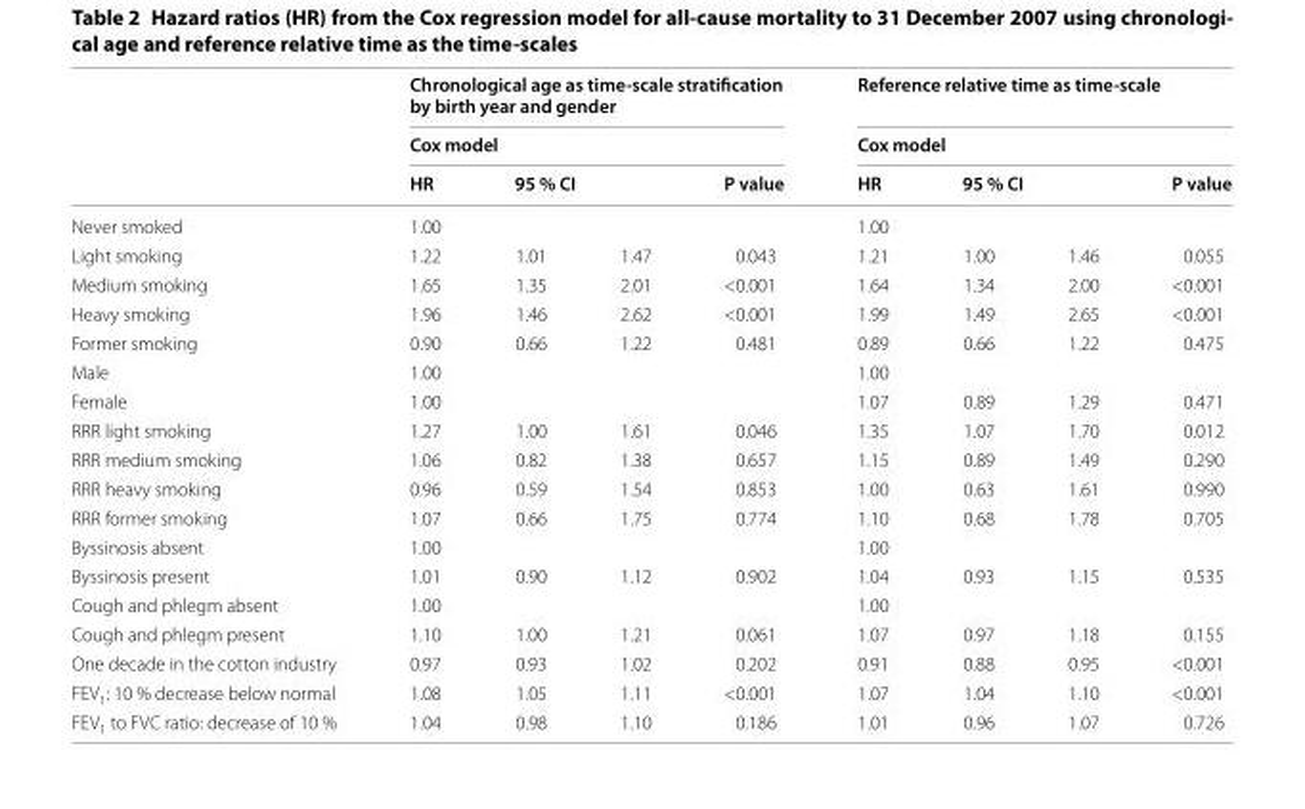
<table><thead><tr><td rowspan="4">Never smoked</td><td rowspan="2" colspan="4">Chronological age as time‑scale stratification by birth year and gender Cox model</td><td rowspan="2" colspan="4">Reference relative time as time‑scale Cox model</td></tr><tr></tr><tr><td rowspan="2">HR 1.00</td><td colspan="2">95 % CI</td><td rowspan="2">P value</td><td rowspan="2">HR 1.00</td><td colspan="2">95 % CI</td><td rowspan="2">P value</td></tr><tr><td></td><td></td><td></td><td></td></tr></thead><tbody><tr><td>Light smoking</td><td>1.22</td><td>1.01</td><td>1.47</td><td>0.043</td><td>1.21</td><td>1.00</td><td>1.46</td><td>0.055</td></tr><tr><td>Medium smoking</td><td>1.65</td><td>1.35</td><td>2.01</td><td>&lt;0.001</td><td>1.64</td><td>1.34</td><td>2.00</td><td>&lt;0.001</td></tr><tr><td>Heavy smoking</td><td>1.96</td><td>1.46</td><td>2.62</td><td>&lt;0.001</td><td>1.99</td><td>1.49</td><td>2.65</td><td>&lt;0.001</td></tr><tr><td>Former smoking</td><td>0.90</td><td>0.66</td><td>1.22</td><td>0.481</td><td>0.89</td><td>0.66</td><td>1.22</td><td>0.475</td></tr><tr><td>Male</td><td>1.00</td><td></td><td></td><td></td><td>1.00</td><td></td><td></td><td></td></tr><tr><td>Female</td><td>1.00</td><td></td><td></td><td></td><td>1.07</td><td>0.89</td><td>1.29</td><td>0.471</td></tr><tr><td>RRR light smoking</td><td>1.27</td><td>1.00</td><td>1.61</td><td>0.046</td><td>1.35</td><td>1.07</td><td>1.70</td><td>0.012</td></tr><tr><td>RRR medium smoking</td><td>1.06</td><td>0.82</td><td>1.38</td><td>0.657</td><td>1.15</td><td>0.89</td><td>1.49</td><td>0.290</td></tr><tr><td>RRR heavy smoking</td><td>0.96</td><td>0.59</td><td>1.54</td><td>0.853</td><td>1.00</td><td>0.63</td><td>1.61</td><td>0.990</td></tr><tr><td>RRR former smoking</td><td>1.07</td><td>0.66</td><td>1.75</td><td>0.774</td><td>1.10</td><td>0.68</td><td>1.78</td><td>0.705</td></tr><tr><td>Byssinosis absent</td><td>1.00</td><td></td><td></td><td></td><td>1.00</td><td></td><td></td><td></td></tr><tr><td>Byssinosis present</td><td>1.01</td><td>0.90</td><td>1.12</td><td>0.902</td><td>1.04</td><td>0.93</td><td>1.15</td><td>0.535</td></tr><tr><td>Cough and phlegm absent</td><td>1.00</td><td></td><td></td><td></td><td>1.00</td><td></td><td></td><td></td></tr><tr><td>Cough and phlegm present</td><td>1.10</td><td>1.00</td><td>1.21</td><td>0.061</td><td>1.07</td><td>0.97</td><td>1.18</td><td>0.155</td></tr><tr><td>One decade in the cotton industry</td><td>0.97</td><td>0.93</td><td>1.02</td><td>0.202</td><td>0.91</td><td>0.88</td><td>0.95</td><td>&lt;0.001</td></tr><tr><td>FEV<sub>1</sub>: 10 % decrease below normal</td><td>1.08</td><td>1.05</td><td>1.11</td><td>&lt;0.001</td><td>1.07</td><td>1.04</td><td>1.10</td><td>&lt;0.001</td></tr><tr><td>FEV<sub>1</sub> to FVC ratio: decrease of 10 %</td><td>1.04</td><td>0.98</td><td>1.10</td><td>0.186</td><td>1.01</td><td>0.96</td><td>1.07</td><td>0.726</td></tr></tbody></table>